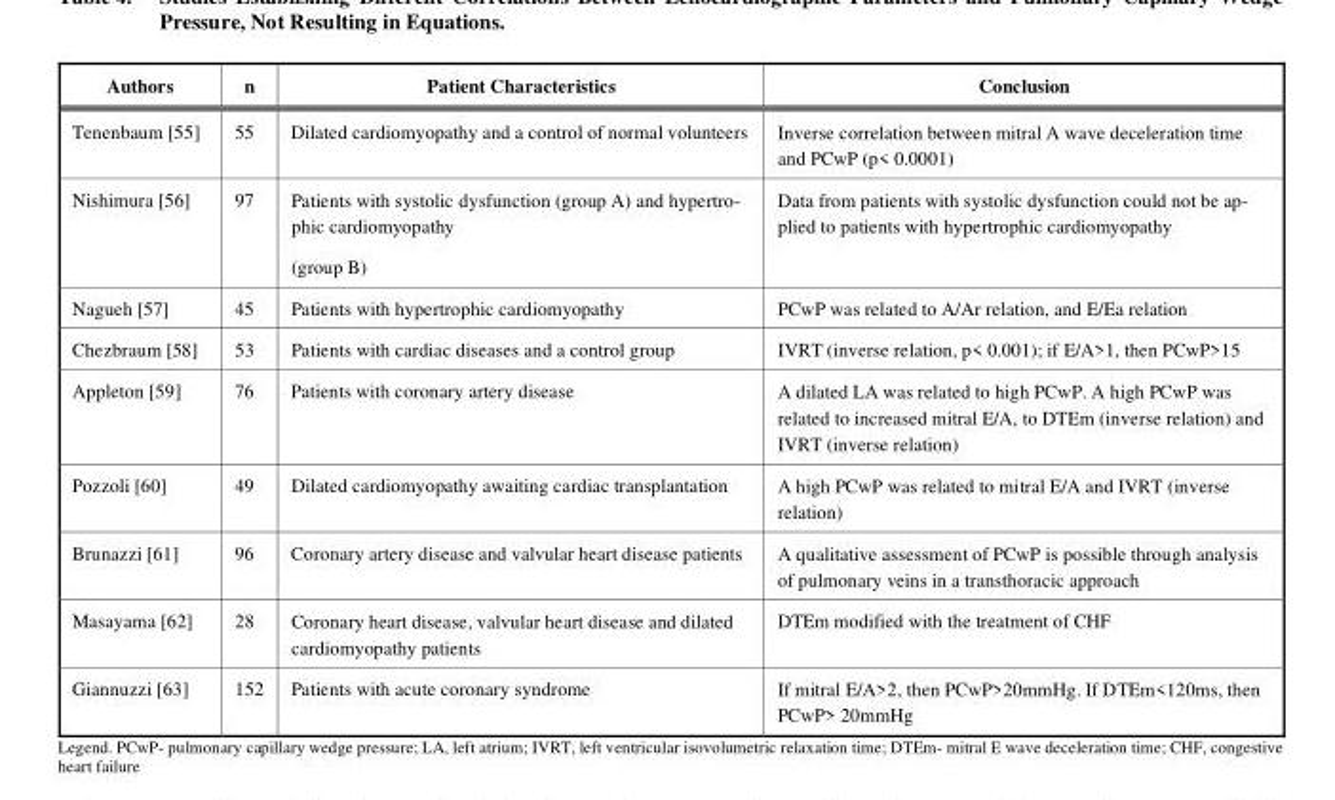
<table><thead><tr><td>Authors</td><td>n</td><td>Patient Characteristics</td><td>Conclusion</td></tr></thead><tbody><tr><td>Tenenbaum [55]</td><td>55</td><td>Dilated cardiomyopathy and a control of normal volunteers</td><td>Inverse correlation between mitral A wave deceleration time and PCwP (p&lt; 0.0001)</td></tr><tr><td>Nishimura [56]</td><td>97</td><td>Patients with systolic dysfunction (group A) and hypertro- phic cardiomyopathy (group B)</td><td>Data from patients with systolic dysfunction could not be ap- plied to patients with hypertrophic cardiomyopathy</td></tr><tr><td>Nagueh [57]</td><td>45</td><td>Patients with hypertrophic cardiomyopathy</td><td>PCwP was related to A/Ar relation, and E/Ea relation</td></tr><tr><td>Chezbraum [58]</td><td>53</td><td>Patients with cardiac diseases and a control group</td><td>IVRT (inverse relation, p&lt; 0.001); if E/A&gt;1, then PCwP&gt;15</td></tr><tr><td>Appleton [59]</td><td>76</td><td>Patients with coronary artery disease</td><td>A dilated LA was related to high PCwP. A high PCwP was related to increased mitral E/A, to DTEm (inverse relation) and IVRT (inverse relation)</td></tr><tr><td>Pozzoli [60]</td><td>49</td><td>Dilated cardiomyopathy awaiting cardiac transplantation</td><td>A high PCwP was related to mitral E/A and IVRT (inverse relation)</td></tr><tr><td>Brunazzi [61]</td><td>96</td><td>Coronary artery disease and valvular heart disease patients</td><td>A qualitative assessment of PCwP is possible through analysis of pulmonary veins in a transthoracic approach</td></tr><tr><td>Masayama [62]</td><td>28</td><td>Coronary heart disease, valvular heart disease and dilated cardiomyopathy patients</td><td>DTEm modified with the treatment of CHF</td></tr><tr><td>Giannuzzi [63]</td><td>152</td><td>Patients with acute coronary syndrome</td><td>If mitral E/A&gt;2, then PCwP&gt;20mmHg. If DTEm&lt;120ms, then PCwP&gt; 20mmHg</td></tr></tbody></table>